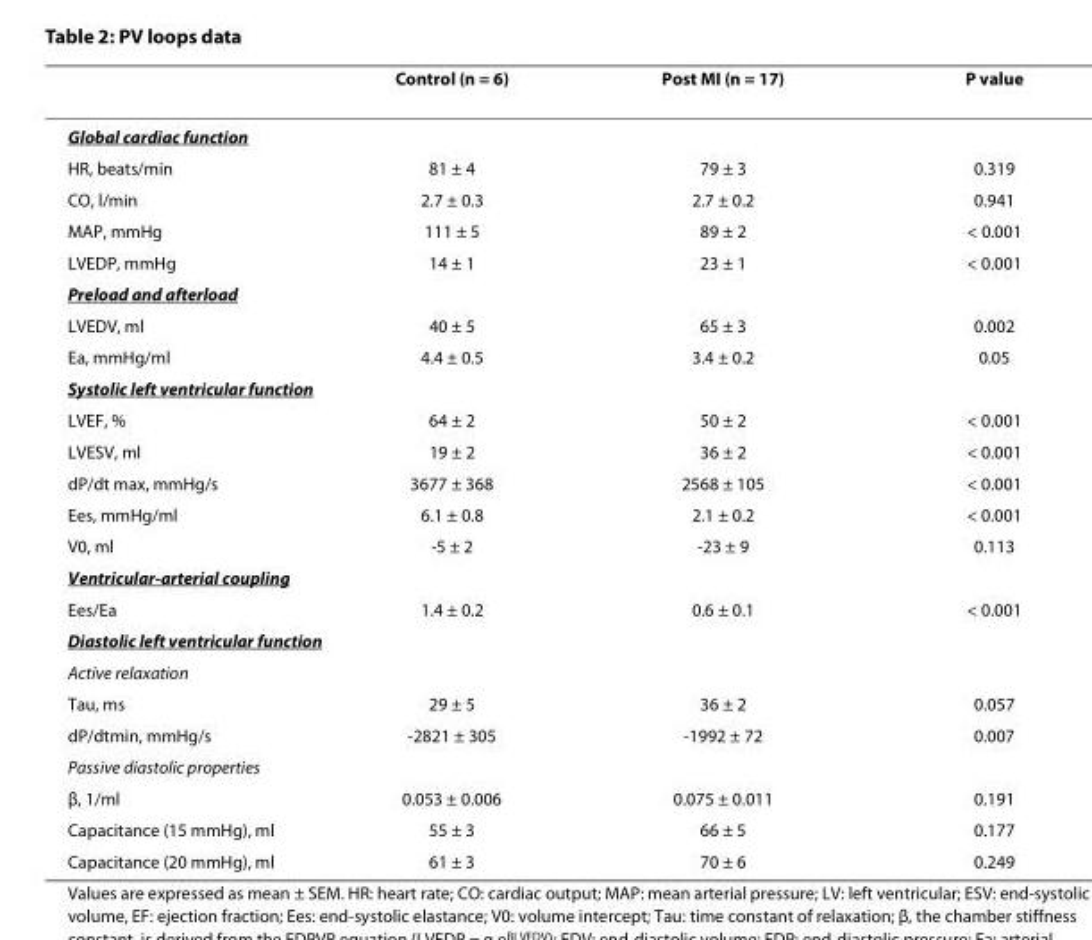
<table><thead><tr><td></td><td>Control (n = 6)</td><td>Post MI (n = 17)</td><td>P value</td></tr></thead><tbody><tr><td colspan="4">Global cardiac function</td></tr><tr><td>HR, beats/min</td><td>81 ± 4</td><td>79 ± 3</td><td>0.319</td></tr><tr><td>CO, l/min</td><td>2.7 ± 0.3</td><td>2.7 ± 0.2</td><td>0.941</td></tr><tr><td>MAP, mmHg</td><td>111 ± 5</td><td>89 ± 2</td><td>&lt; 0.001</td></tr><tr><td>LVEDP, mmHg</td><td>14 ± 1</td><td>23 ± 1</td><td>&lt; 0.001</td></tr><tr><td colspan="4">Preload and afterload</td></tr><tr><td>LVEDV, ml</td><td>40 ± 5</td><td>65 ± 3</td><td>0.002</td></tr><tr><td>Ea, mmHg/ml</td><td>4.4 ± 0.5</td><td>3.4 ± 0.2</td><td>0.05</td></tr><tr><td colspan="4">Systolic left ventricular function</td></tr><tr><td>LVEF, %</td><td>64 ± 2</td><td>50 ± 2</td><td>&lt; 0.001</td></tr><tr><td>LVESV, ml</td><td>19 ± 2</td><td>36 ± 2</td><td>&lt; 0.001</td></tr><tr><td>dP/dt max, mmHg/s</td><td>3677 ± 368</td><td>2568 ± 105</td><td>&lt; 0.001</td></tr><tr><td>Ees, mmHg/ml</td><td>6.1 ± 0.8</td><td>2.1 ± 0.2</td><td>&lt; 0.001</td></tr><tr><td>V0, ml</td><td>-5 ± 2</td><td>-23 ± 9</td><td>0.113</td></tr><tr><td colspan="4">Ventricular-arterial coupling</td></tr><tr><td>Ees/Ea</td><td>1.4 ± 0.2</td><td>0.6 ± 0.1</td><td>&lt; 0.001</td></tr><tr><td colspan="4">Diastolic left ventricular function</td></tr><tr><td colspan="4">Active relaxation</td></tr><tr><td>Tau, ms</td><td>29 ± 5</td><td>36 ± 2</td><td>0.057</td></tr><tr><td>dP/dtmin, mmHg/s</td><td>-2821 ± 305</td><td>-1992 ± 72</td><td>0.007</td></tr><tr><td colspan="4">Passive diastolic properties</td></tr><tr><td>β, 1/ml</td><td>0.053 ± 0.006</td><td>0.075 ± 0.011</td><td>0.191</td></tr><tr><td>Capacitance (15 mmHg), ml</td><td>55 ± 3</td><td>66 ± 5</td><td>0.177</td></tr><tr><td>Capacitance (20 mmHg), ml</td><td>61 ± 3</td><td>70 ± 6</td><td>0.249</td></tr></tbody></table>